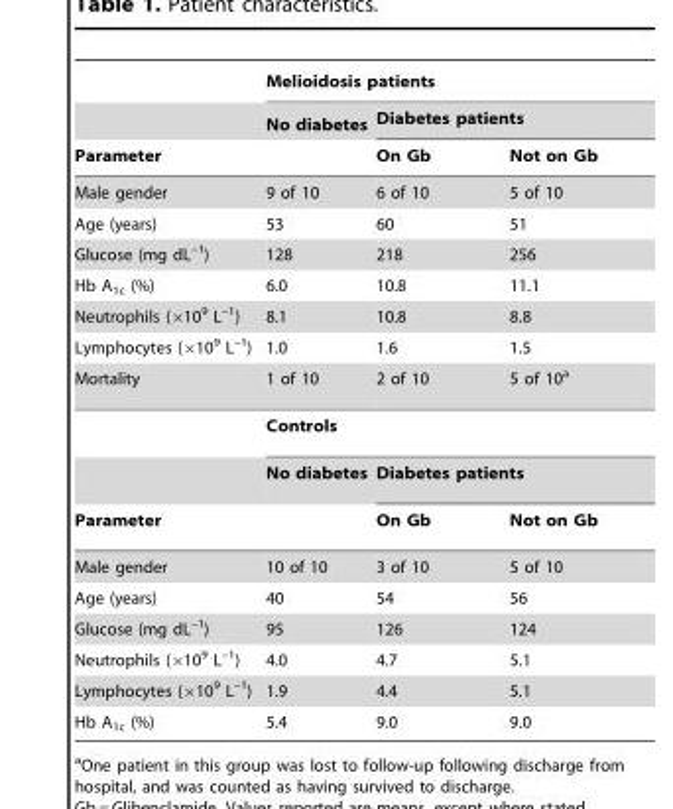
<table><thead><tr><td rowspan="3">Parameter</td><td colspan="3">Melioidosis patients</td></tr><tr><td rowspan="2">No diabetes</td><td colspan="2">Diabetes patients</td></tr><tr><td>On Gb</td><td>Not on Gb</td></tr></thead><tbody><tr><td>Male gender</td><td>9 of 10</td><td>6 of 10</td><td>5 of 10</td></tr><tr><td>Age (years)</td><td>53</td><td>60</td><td>51</td></tr><tr><td>Glucose (mg dL<sup>–1</sup>)</td><td>128</td><td>218</td><td>256</td></tr><tr><td>Hb A<sub>1c</sub> (%)</td><td>6.0</td><td>10.8</td><td>11.1</td></tr><tr><td>Neutrophils (×10<sup>9</sup> L<sup>–1</sup>)</td><td>8.1</td><td>10.8</td><td>8.8</td></tr><tr><td>Lymphocytes (×10<sup>9</sup> L<sup>–1</sup>)</td><td>1.0</td><td>1.6</td><td>1.5</td></tr><tr><td rowspan="3">Mortality</td><td>1 of 10</td><td>2 of 10</td><td>5 of 10<sup>a</sup></td></tr><tr><td colspan="3">Controls</td></tr><tr><td>No diabetes</td><td colspan="2">Diabetes patients</td></tr><tr><td>Parameter</td><td></td><td>On Gb</td><td>Not on Gb</td></tr><tr><td>Male gender</td><td>10 of 10</td><td>3 of 10</td><td>5 of 10</td></tr><tr><td>Age (years)</td><td>40</td><td>54</td><td>56</td></tr><tr><td>Glucose (mg dL<sup>–1</sup>)</td><td>95</td><td>126</td><td>124</td></tr><tr><td>Neutrophils (×10<sup>9</sup> L<sup>–1</sup>)</td><td>4.0</td><td>4.7</td><td>5.1</td></tr><tr><td>Lymphocytes (×10<sup>9</sup> L<sup>–1</sup>)</td><td>1.9</td><td>4.4</td><td>5.1</td></tr><tr><td>Hb A<sub>1c</sub> (%)</td><td>5.4</td><td>9.0</td><td>9.0</td></tr></tbody></table>